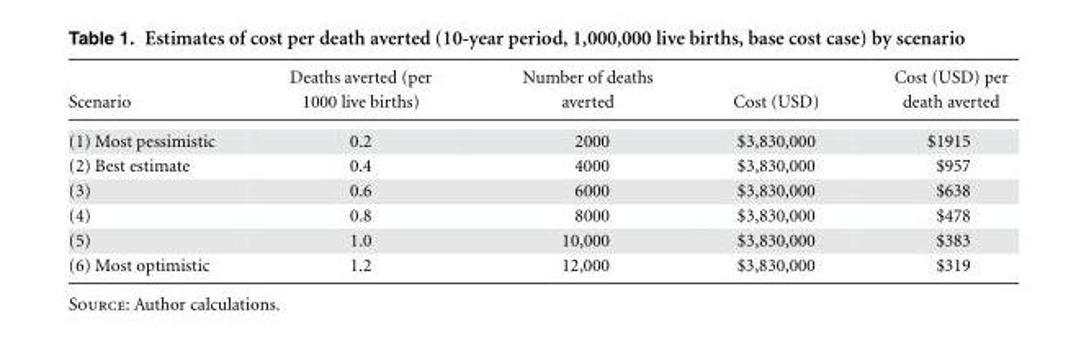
<table><thead><tr><td>Scenario</td><td>Deaths averted (per 1000 live births)</td><td>Number of deaths averted</td><td>Cost (USD)</td><td>Cost (USD) per death averted</td></tr></thead><tbody><tr><td>(1) Most pessimistic</td><td>0.2</td><td>2000</td><td>$3,830,000</td><td>$1915</td></tr><tr><td>(2) Best estimate</td><td>0.4</td><td>4000</td><td>$3,830,000</td><td>$957</td></tr><tr><td>(3)</td><td>0.6</td><td>6000</td><td>$3,830,000</td><td>$638</td></tr><tr><td>(4)</td><td>0.8</td><td>8000</td><td>$3,830,000</td><td>$478</td></tr><tr><td>(5)</td><td>1.0</td><td>10,000</td><td>$3,830,000</td><td>$383</td></tr><tr><td>(6) Most optimistic</td><td>1.2</td><td>12,000</td><td>$3,830,000</td><td>$319</td></tr></tbody></table>